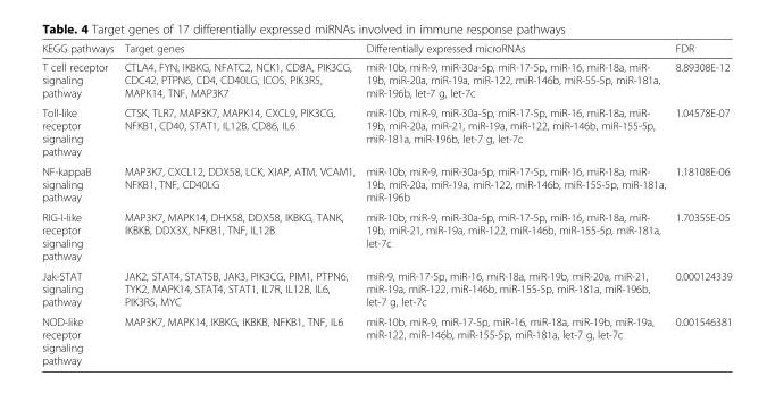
<table><thead><tr><td>KEGG pathways</td><td>Target genes</td><td>Differentially expressed microRNAs</td><td>FDR</td></tr></thead><tbody><tr><td>T cell receptor signaling pathway</td><td>CTLA4, FYN, IKBKG, NFATC2, NCK1, CD8A, PIK3CG, CDC42, PTPN6, CD4, CD40LG, ICOS, PIK3R5, MAPK14, TNF, MAP3K7</td><td>miR-10b, miR-9, miR-30a-5p, miR-17-5p, miR-16, miR-18a, miR- 19b, miR-20a, miR-19a, miR-122, miR-146b, miR-55-5p, miR-181a, miR-196b, let-7 g, let-7c</td><td>8.89308E-12</td></tr><tr><td>Toll-like receptor signaling pathway</td><td>CTSK, TLR7, MAP3K7, MAPK14, CXCL9, PIK3CG, NFKB1, CD40, STAT1, IL12B, CD86, IL6</td><td>miR-10b, miR-9, miR-30a-5p, miR-17-5p, miR-16, miR-18a, miR- 19b, miR-20a, miR-21, miR-19a, miR-122, miR-146b, miR-155-5p, miR-181a, miR-196b, let-7 g, let-7c</td><td>1.04578E-07</td></tr><tr><td>NF-kappaB signaling pathway</td><td>MAP3K7, CXCL12, DDX58, LCK, XIAP, ATM, VCAM1, NFKB1, TNF, CD40LG</td><td>miR-10b, miR-9, miR-30a-5p, miR-17-5p, miR-16, miR-18a, miR- 19b, miR-20a, miR-19a, miR-122, miR-146b, miR-155-5p, miR-181a, miR-196b</td><td>1.18108E-06</td></tr><tr><td>RIG-I-like receptor signaling pathway</td><td>MAP3K7, MAPK14, DHX58, DDX58, IKBKG, TANK, IKBKB, DDX3X, NFKB1, TNF, IL12B</td><td>miR-10b, miR-9, miR-30a-5p, miR-17-5p, miR-16, miR-18a, miR- 19b, miR-21, miR-19a, miR-122, miR-146b, miR-155-5p, miR-181a, let-7c</td><td>1.70355E-05</td></tr><tr><td>Jak-STAT signaling pathway</td><td>JAK2, STAT4, STAT5B, JAK3, PIK3CG, PIM1, PTPN6, TYK2, MAPK14, STAT4, STAT1, IL7R, IL12B, IL6, PIK3R5, MYC</td><td>miR-9, miR-17-5p, miR-16, miR-18a, miR-19b, miR-20a, miR-21, miR-19a, miR-122, miR-146b, miR-155-5p, miR-181a, miR-196b, let-7 g, let-7c</td><td>0.000124339</td></tr><tr><td>NOD-like receptor signaling pathway</td><td>MAP3K7, MAPK14, IKBKG, IKBKB, NFKB1, TNF, IL6</td><td>miR-10b, miR-9, miR-17-5p, miR-16, miR-18a, miR-19b, miR-19a, miR-122, miR-146b, miR-155-5p, miR-181a, let-7 g, let-7c</td><td>0.001546381</td></tr></tbody></table>